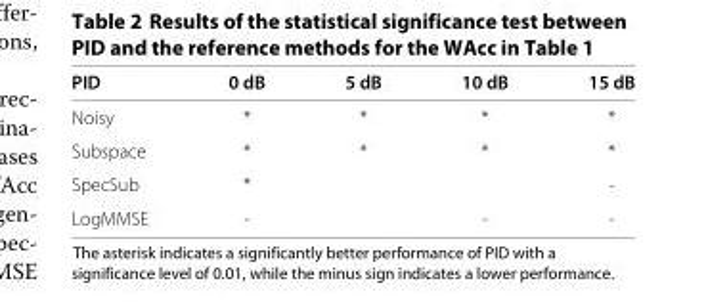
<table><thead><tr><td>PID</td><td>0 dB</td><td>5 dB</td><td>10 dB</td><td>15 dB</td></tr></thead><tbody><tr><td>Noisy</td><td>*</td><td>*</td><td>*</td><td>*</td></tr><tr><td>Subspace</td><td>*</td><td>*</td><td>*</td><td>*</td></tr><tr><td>SpecSub</td><td>*</td><td></td><td></td><td>-</td></tr><tr><td>LogMMSE</td><td>-</td><td></td><td>-</td><td>-</td></tr></tbody></table>